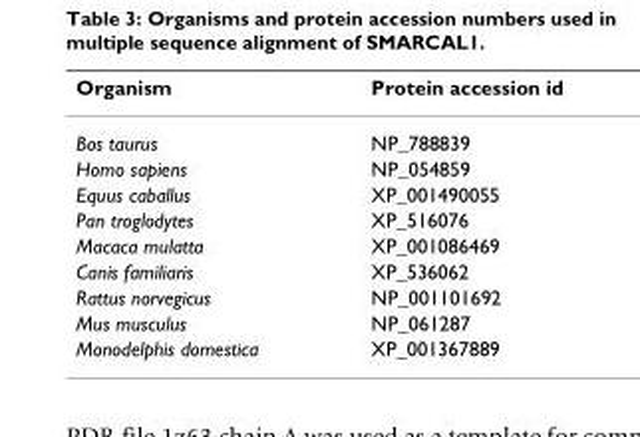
<table><thead><tr><td>Organism</td><td>Protein accession id</td></tr></thead><tbody><tr><td>Bos taurus</td><td>NP_788839</td></tr><tr><td>Homo sapiens</td><td>NP_054859</td></tr><tr><td>Equus caballus</td><td>XP_001490055</td></tr><tr><td>Pan troglodytes</td><td>XP_516076</td></tr><tr><td>Macaca mulatta</td><td>XP_001086469</td></tr><tr><td>Canis familiaris</td><td>XP_536062</td></tr><tr><td>Rattus norvegicus</td><td>NP_001101692</td></tr><tr><td>Mus musculus</td><td>NP_061287</td></tr><tr><td>Monodelphis domestica</td><td>XP_001367889</td></tr></tbody></table>